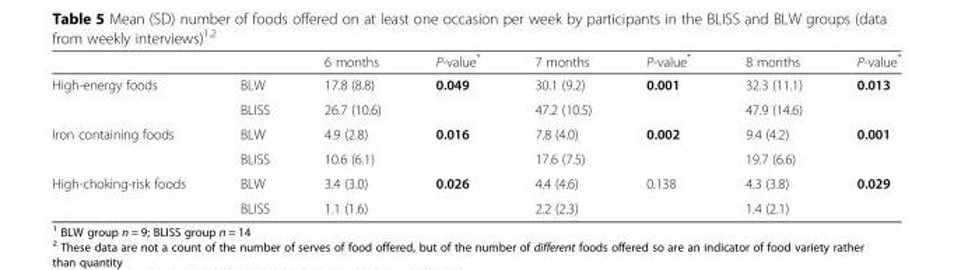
<table><thead><tr><td></td><td></td><td>6 months</td><td>P-value*</td><td>7 months</td><td>P-value*</td><td>8 months</td><td>P-value*</td></tr></thead><tbody><tr><td rowspan="2">High-energy foods</td><td>BLW</td><td>17.8 (8.8)</td><td rowspan="2">0.049</td><td>30.1 (9.2)</td><td rowspan="2">0.001</td><td>32.3 (11.1)</td><td rowspan="2">0.013</td></tr><tr><td>BLISS</td><td>26.7 (10.6)</td><td>47.2 (10.5)</td><td>47.9 (14.6)</td></tr><tr><td rowspan="2">Iron containing foods</td><td>BLW</td><td>4.9 (2.8)</td><td rowspan="2">0.016</td><td>7.8 (4.0)</td><td rowspan="2">0.002</td><td>9.4 (4.2)</td><td rowspan="2">0.001</td></tr><tr><td>BLISS</td><td>10.6 (6.1)</td><td>17.6 (7.5)</td><td>19.7 (6.6)</td></tr><tr><td rowspan="2">High-choking-risk foods</td><td>BLW</td><td>3.4 (3.0)</td><td rowspan="2">0.026</td><td>4.4 (4.6)</td><td rowspan="2">0.138</td><td>4.3 (3.8)</td><td rowspan="2">0.029</td></tr><tr><td>BLISS</td><td>1.1 (1.6)</td><td>2.2 (2.3)</td><td>1.4 (2.1)</td></tr></tbody></table>